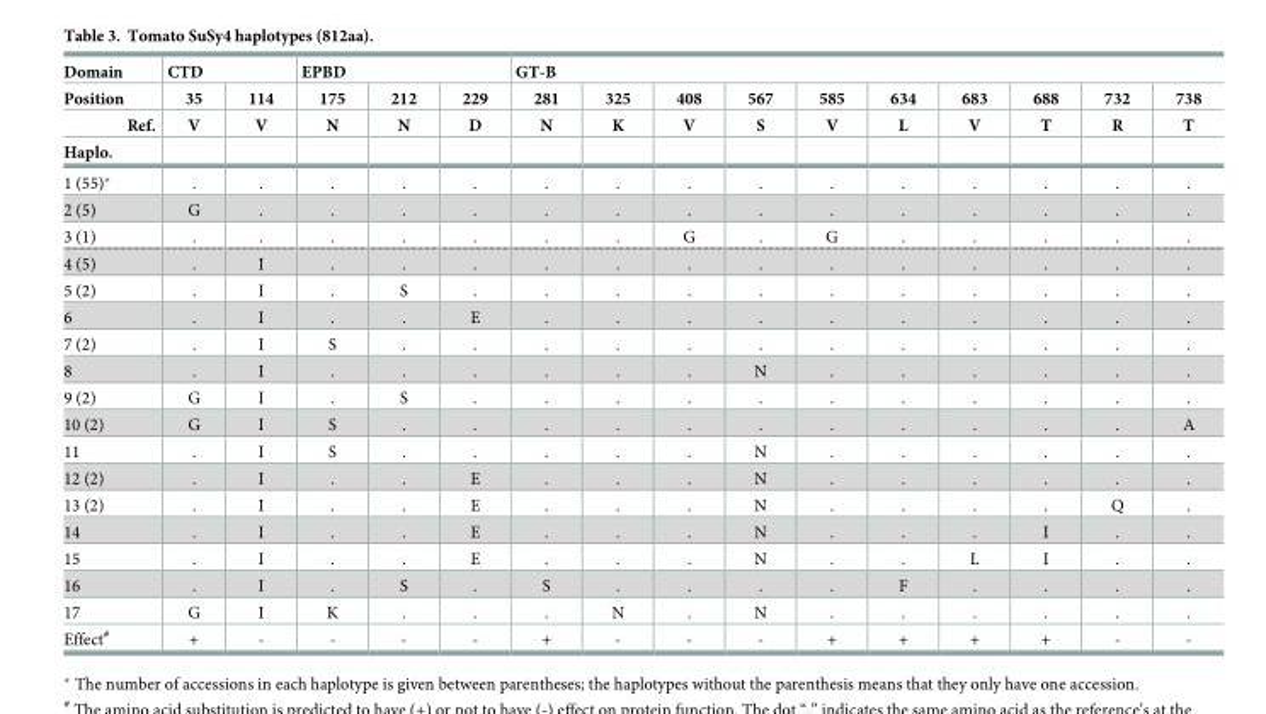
<table><thead><tr><td rowspan="4">Domain Position Ref. Haplo.</td><td colspan="2">CTD</td><td colspan="3">EPBD</td><td colspan="10">GT-B</td></tr><tr><td rowspan="3">35 V</td><td rowspan="3">114 V</td><td rowspan="3">175 N</td><td rowspan="3">212 N</td><td rowspan="3">229 D</td><td rowspan="3">281 N</td><td rowspan="3">325 K</td><td rowspan="3">408 V</td><td rowspan="3">567 S</td><td rowspan="3">585 V</td><td rowspan="3">634 L</td><td rowspan="3">683 V</td><td rowspan="3">688 T</td><td rowspan="3">732 R</td><td rowspan="3">738 T</td></tr><tr></tr><tr></tr></thead><tbody><tr><td>1 (55)*</td><td>.</td><td>.</td><td>.</td><td>.</td><td>.</td><td>.</td><td>.</td><td>.</td><td>.</td><td>.</td><td>.</td><td>.</td><td>.</td><td>.</td><td>.</td></tr><tr><td>2 (5)</td><td>G</td><td>.</td><td>.</td><td>.</td><td>.</td><td>.</td><td>.</td><td>.</td><td>.</td><td>.</td><td>.</td><td>.</td><td>.</td><td>.</td><td>.</td></tr><tr><td>3 (1)</td><td>.</td><td>.</td><td>.</td><td>.</td><td>.</td><td>.</td><td>.</td><td>G</td><td>.</td><td>G</td><td>.</td><td>.</td><td>.</td><td>.</td><td>.</td></tr><tr><td>4 (5)</td><td>.</td><td>I</td><td>.</td><td>.</td><td>.</td><td>.</td><td>.</td><td>.</td><td>.</td><td>.</td><td>.</td><td>.</td><td>.</td><td>.</td><td>.</td></tr><tr><td>5 (2)</td><td>.</td><td>I</td><td>.</td><td>S</td><td>.</td><td>.</td><td>.</td><td>.</td><td>.</td><td>.</td><td>.</td><td>.</td><td>.</td><td>.</td><td>.</td></tr><tr><td>6</td><td>.</td><td>I</td><td>.</td><td>.</td><td>E</td><td>.</td><td>.</td><td>.</td><td>.</td><td>.</td><td>.</td><td>.</td><td>.</td><td>.</td><td>.</td></tr><tr><td>7 (2)</td><td>.</td><td>I</td><td>S</td><td>.</td><td>.</td><td>.</td><td>.</td><td>.</td><td>.</td><td>.</td><td>.</td><td>.</td><td>.</td><td>.</td><td>.</td></tr><tr><td>8</td><td>.</td><td>I</td><td>.</td><td>.</td><td>.</td><td>.</td><td>.</td><td>.</td><td>N</td><td>.</td><td>.</td><td>.</td><td>.</td><td>.</td><td>.</td></tr><tr><td>9 (2)</td><td>G</td><td>I</td><td>.</td><td>S</td><td>.</td><td>.</td><td>.</td><td>.</td><td>.</td><td>.</td><td>.</td><td>.</td><td>.</td><td>.</td><td>.</td></tr><tr><td>10 (2)</td><td>G</td><td>I</td><td>S</td><td>.</td><td>.</td><td>.</td><td>.</td><td>.</td><td>.</td><td>.</td><td>.</td><td>.</td><td>.</td><td>.</td><td>A</td></tr><tr><td>11</td><td>.</td><td>I</td><td>S</td><td>.</td><td>.</td><td>.</td><td>.</td><td>.</td><td>N</td><td>.</td><td>.</td><td>.</td><td>.</td><td>.</td><td>.</td></tr><tr><td>12 (2)</td><td>.</td><td>I</td><td>.</td><td>.</td><td>E</td><td>.</td><td>.</td><td>.</td><td>N</td><td>.</td><td>.</td><td>.</td><td>.</td><td>.</td><td>.</td></tr><tr><td>13 (2)</td><td>.</td><td>I</td><td>.</td><td>.</td><td>E</td><td>.</td><td>.</td><td>.</td><td>N</td><td>.</td><td>.</td><td>.</td><td>.</td><td>Q</td><td>.</td></tr><tr><td>14</td><td>.</td><td>I</td><td>.</td><td>.</td><td>E</td><td>.</td><td>.</td><td>.</td><td>N</td><td>.</td><td>.</td><td>.</td><td>I</td><td>.</td><td>.</td></tr><tr><td>15</td><td>.</td><td>I</td><td>.</td><td>.</td><td>E</td><td>.</td><td>.</td><td>.</td><td>N</td><td>.</td><td>.</td><td>L</td><td>I</td><td>.</td><td>.</td></tr><tr><td>16</td><td>.</td><td>I</td><td>.</td><td>S</td><td>.</td><td>S</td><td>.</td><td>.</td><td>.</td><td>.</td><td>F</td><td>.</td><td>.</td><td>.</td><td>.</td></tr><tr><td>17</td><td>G</td><td>I</td><td>K</td><td>.</td><td>.</td><td>.</td><td>N</td><td>.</td><td>N</td><td>.</td><td>.</td><td>.</td><td>.</td><td>.</td><td>.</td></tr><tr><td>Effect<sup>#</sup></td><td>+</td><td>-</td><td>-</td><td>-</td><td>-</td><td>+</td><td>-</td><td>-</td><td>-</td><td>+</td><td>+</td><td>+</td><td>+</td><td>-</td><td>-</td></tr></tbody></table>